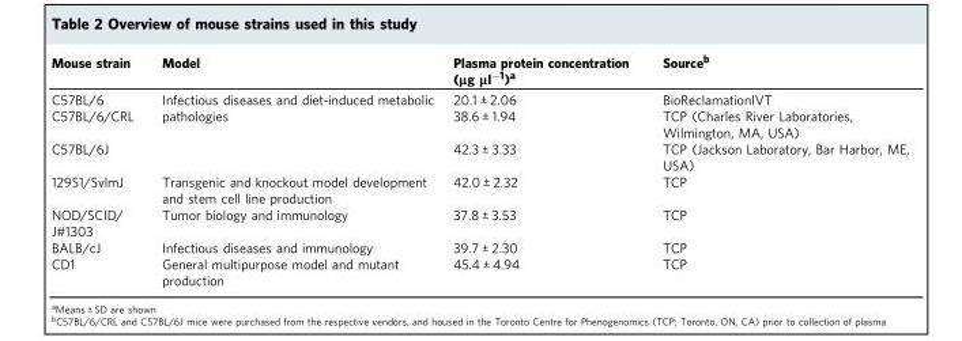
<table><thead><tr><td>Mouse strain</td><td>Model</td><td>Plasma protein concentration (μg μl<sup>−1</sup>)<sup>a</sup></td><td>Source<sup>b</sup></td></tr></thead><tbody><tr><td>C57BL/6</td><td rowspan="3">Infectious diseases and diet-induced metabolic pathologies</td><td>20.1 ± 2.06</td><td>BioReclamationIVT</td></tr><tr><td>C57BL/6/CRL</td><td>38.6 ± 1.94</td><td>TCP (Charles River Laboratories, Wilmington, MA, USA)</td></tr><tr><td>C57BL/6J</td><td>42.3 ± 3.33</td><td>TCP (Jackson Laboratory, Bar Harbor, ME, USA)</td></tr><tr><td>129S1/SvlmJ</td><td>Transgenic and knockout model development and stem cell line production</td><td>42.0 ± 2.32</td><td>TCP</td></tr><tr><td>NOD/SCID/ J#1303</td><td>Tumor biology and immunology</td><td>37.8 ± 3.53</td><td>TCP</td></tr><tr><td>BALB/cJ</td><td>Infectious diseases and immunology</td><td>39.7 ± 2.30</td><td>TCP</td></tr><tr><td>CD1</td><td>General multipurpose model and mutant production</td><td>45.4 ± 4.94</td><td>TCP</td></tr></tbody></table>